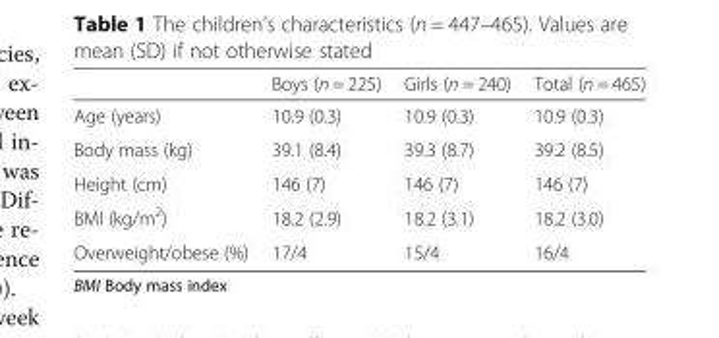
<table><thead><tr><td></td><td>Boys (n = 225)</td><td>Girls (n = 240)</td><td>Total (n = 465)</td></tr></thead><tbody><tr><td>Age (years)</td><td>10.9 (0.3)</td><td>10.9 (0.3)</td><td>10.9 (0.3)</td></tr><tr><td>Body mass (kg)</td><td>39.1 (8.4)</td><td>39.3 (8.7)</td><td>39.2 (8.5)</td></tr><tr><td>Height (cm)</td><td>146 (7)</td><td>146 (7)</td><td>146 (7)</td></tr><tr><td>BMI (kg/m<sup>2</sup>)</td><td>18.2 (2.9)</td><td>18.2 (3.1)</td><td>18.2 (3.0)</td></tr><tr><td>Overweight/obese (%)</td><td>17/4</td><td>15/4</td><td>16/4</td></tr></tbody></table>